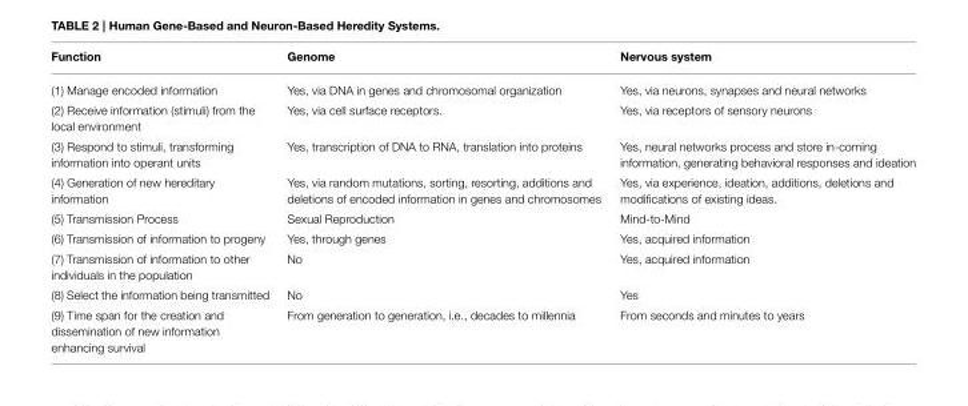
<table><thead><tr><td>Function</td><td>Genome</td><td>Nervous system</td></tr></thead><tbody><tr><td>(1) Manage encoded information</td><td>Yes, via DNA in genes and chromosomal organization</td><td>Yes, via neurons, synapses and neural networks</td></tr><tr><td>(2) Receive information (stimuli) from the local environment</td><td>Yes, via cell surface receptors.</td><td>Yes, via receptors of sensory neurons</td></tr><tr><td>(3) Respond to stimuli, transforming information into operant units</td><td>Yes, transcription of DNA to RNA, translation into proteins</td><td>Yes, neural networks process and store in-coming information, generating behavioral responses and ideation</td></tr><tr><td>(4) Generation of new hereditary information</td><td>Yes, via random mutations, sorting, resorting, additions and deletions of encoded information in genes and chromosomes</td><td>Yes, via experience, ideation, additions, deletions and modifications of existing ideas.</td></tr><tr><td>(5) Transmission Process</td><td>Sexual Reproduction</td><td>Mind-to-Mind</td></tr><tr><td>(6) Transmission of information to progeny</td><td>Yes, through genes</td><td>Yes, acquired information</td></tr><tr><td>(7) Transmission of information to other individuals in the population</td><td>No</td><td>Yes, acquired information</td></tr><tr><td>(8) Select the information being transmitted</td><td>No</td><td>Yes</td></tr><tr><td>(9) Time span for the creation and dissemination of new information enhancing survival</td><td>From generation to generation, i.e., decades to millennia</td><td>From seconds and minutes to years</td></tr></tbody></table>